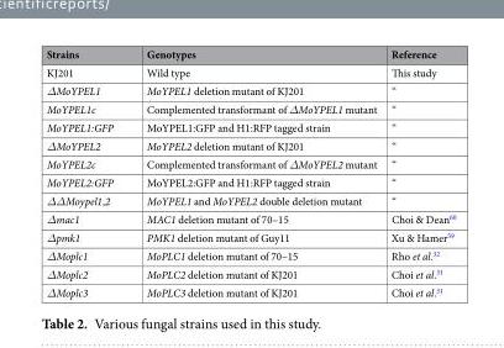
<table><thead><tr><td>Strains</td><td>Genotypes</td><td>Reference</td></tr></thead><tbody><tr><td>KJ201</td><td>Wild type</td><td>This study</td></tr><tr><td>ΔMoYPEL1</td><td>MoYPEL1 deletion mutant of KJ201</td><td>“</td></tr><tr><td>MoYPEL1c</td><td>Complemented transformant of ΔMoYPEL1 mutant</td><td>“</td></tr><tr><td>MoYPEL1:GFP</td><td>MoYPEL1:GFP and H1:RFP tagged strain</td><td>“</td></tr><tr><td>ΔMoYPEL2</td><td>MoYPEL2 deletion mutant of KJ201</td><td>“</td></tr><tr><td>MoYPEL2c</td><td>Complemented transformant of ΔMoYPEL2 mutant</td><td>“</td></tr><tr><td>MoYPEL2:GFP</td><td>MoYPEL2:GFP and H1:RFP tagged strain</td><td>“</td></tr><tr><td>ΔΔMoypel1,2</td><td>MoYPEL1 and MoYPEL2 double deletion mutant</td><td>“</td></tr><tr><td>Δmac1</td><td>MAC1 deletion mutant of 70–15</td><td>Choi &amp; Dean<sup>60</sup></td></tr><tr><td>Δpmk1</td><td>PMK1 deletion mutant of Guy11</td><td>Xu &amp; Hamer<sup>59</sup></td></tr><tr><td>ΔMoplc1</td><td>MoPLC1 deletion mutant of 70–15</td><td>Rho et al.<sup>32</sup></td></tr><tr><td>ΔMoplc2</td><td>MoPLC2 deletion mutant of KJ201</td><td>Choi et al.<sup>31</sup></td></tr><tr><td>ΔMoplc3</td><td>MoPLC3 deletion mutant of KJ201</td><td>Choi et al.<sup>31</sup></td></tr></tbody></table>